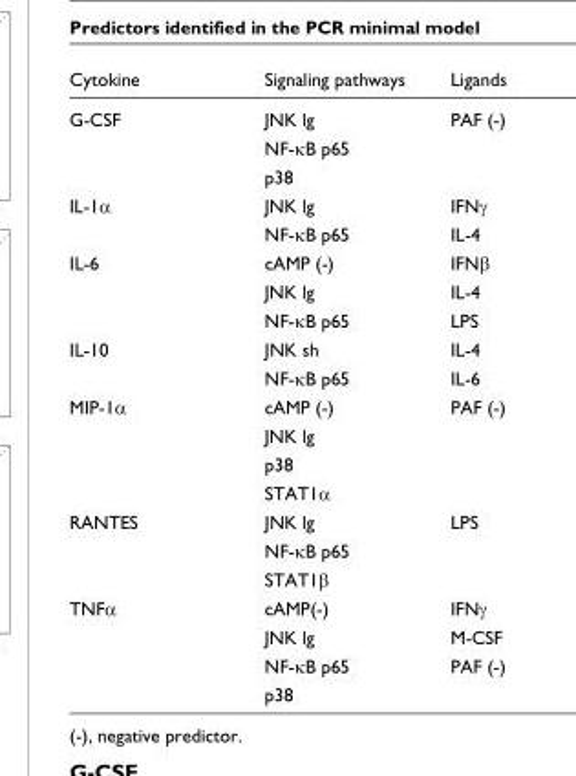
<table><thead><tr><td>Cytokine</td><td>Signaling pathways</td><td>Ligands</td></tr></thead><tbody><tr><td rowspan="3">G-CSF</td><td>JNK lg</td><td>PAF (-)</td></tr><tr><td>NF-κB p65</td><td></td></tr><tr><td>p38</td><td></td></tr><tr><td rowspan="2">IL-1α</td><td>JNK lg</td><td>IFNγ</td></tr><tr><td>NF-κB p65</td><td>IL-4</td></tr><tr><td rowspan="3">IL-6</td><td>cAMP (-)</td><td>IFNβ</td></tr><tr><td>JNK lg</td><td>IL-4</td></tr><tr><td>NF-κB p65</td><td>LPS</td></tr><tr><td rowspan="2">IL-10</td><td>JNK sh</td><td>IL-4</td></tr><tr><td>NF-κB p65</td><td>IL-6</td></tr><tr><td rowspan="4">MIP-1α</td><td>cAMP (-)</td><td>PAF (-)</td></tr><tr><td>JNK lg</td><td></td></tr><tr><td>p38</td><td></td></tr><tr><td>STAT1α</td><td></td></tr><tr><td rowspan="3">RANTES</td><td>JNK lg</td><td>LPS</td></tr><tr><td>NF-κB p65</td><td></td></tr><tr><td>STAT1β</td><td></td></tr><tr><td rowspan="4">TNFα</td><td>cAMP(-)</td><td>IFNγ</td></tr><tr><td>JNK lg</td><td>M-CSF</td></tr><tr><td>NF-κB p65</td><td>PAF (-)</td></tr><tr><td>p38</td><td></td></tr></tbody></table>